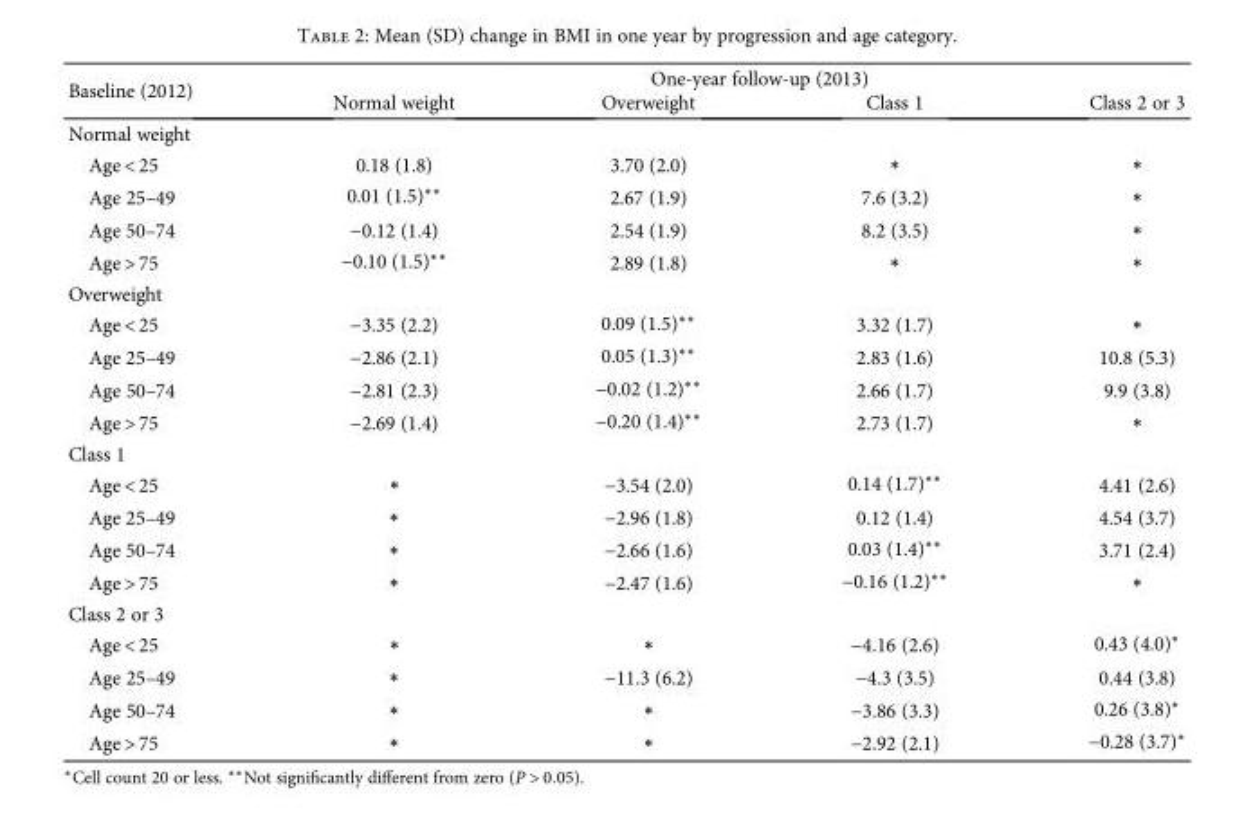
<table><thead><tr><td rowspan="2">Baseline (2012)</td><td colspan="4">One-year follow-up (2013)</td></tr><tr><td>Normal weight</td><td>Overweight</td><td>Class 1</td><td>Class 2 or 3</td></tr></thead><tbody><tr><td colspan="5">Normal weight</td></tr><tr><td>Age &lt; 25</td><td>0.18 (1.8)</td><td>3.70 (2.0)</td><td>∗</td><td>∗</td></tr><tr><td>Age 25–49</td><td>0.01 (1.5)∗∗</td><td>2.67 (1.9)</td><td>7.6 (3.2)</td><td>∗</td></tr><tr><td>Age 50–74</td><td>−0.12 (1.4)</td><td>2.54 (1.9)</td><td>8.2 (3.5)</td><td>∗</td></tr><tr><td>Age &gt; 75</td><td>−0.10 (1.5)∗∗</td><td>2.89 (1.8)</td><td>∗</td><td>∗</td></tr><tr><td colspan="5">Overweight</td></tr><tr><td>Age &lt; 25</td><td>−3.35 (2.2)</td><td>0.09 (1.5)∗∗</td><td>3.32 (1.7)</td><td>∗</td></tr><tr><td>Age 25–49</td><td>−2.86 (2.1)</td><td>0.05 (1.3)∗∗</td><td>2.83 (1.6)</td><td>10.8 (5.3)</td></tr><tr><td>Age 50–74</td><td>−2.81 (2.3)</td><td>−0.02 (1.2)∗∗</td><td>2.66 (1.7)</td><td>9.9 (3.8)</td></tr><tr><td>Age &gt; 75</td><td>−2.69 (1.4)</td><td>−0.20 (1.4)∗∗</td><td>2.73 (1.7)</td><td>∗</td></tr><tr><td colspan="5">Class 1</td></tr><tr><td>Age &lt; 25</td><td>∗</td><td>−3.54 (2.0)</td><td>0.14 (1.7)∗∗</td><td>4.41 (2.6)</td></tr><tr><td>Age 25–49</td><td>∗</td><td>−2.96 (1.8)</td><td>0.12 (1.4)</td><td>4.54 (3.7)</td></tr><tr><td>Age 50–74</td><td>∗</td><td>−2.66 (1.6)</td><td>0.03 (1.4)∗∗</td><td>3.71 (2.4)</td></tr><tr><td>Age &gt; 75</td><td>∗</td><td>−2.47 (1.6)</td><td>−0.16 (1.2)∗∗</td><td>∗</td></tr><tr><td colspan="5">Class 2 or 3</td></tr><tr><td>Age &lt; 25</td><td>∗</td><td>∗</td><td>−4.16 (2.6)</td><td>0.43 (4.0)∗</td></tr><tr><td>Age 25–49</td><td>∗</td><td>−11.3 (6.2)</td><td>−4.3 (3.5)</td><td>0.44 (3.8)</td></tr><tr><td>Age 50–74</td><td>∗</td><td>∗</td><td>−3.86 (3.3)</td><td>0.26 (3.8)∗</td></tr><tr><td>Age &gt; 75</td><td>∗</td><td>∗</td><td>−2.92 (2.1)</td><td>−0.28 (3.7)∗</td></tr></tbody></table>